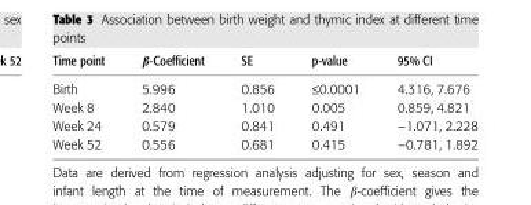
<table><thead><tr><td>Time point</td><td>β-Coefficient</td><td>SE</td><td>p-value</td><td>95% CI</td></tr></thead><tbody><tr><td>Birth</td><td>5.996</td><td>0.856</td><td>≤0.0001</td><td>4.316, 7.676</td></tr><tr><td>Week 8</td><td>2.840</td><td>1.010</td><td>0.005</td><td>0.859, 4.821</td></tr><tr><td>Week 24</td><td>0.579</td><td>0.841</td><td>0.491</td><td>−1.071, 2.228</td></tr><tr><td>Week 52</td><td>0.556</td><td>0.681</td><td>0.415</td><td>−0.781, 1.892</td></tr></tbody></table>